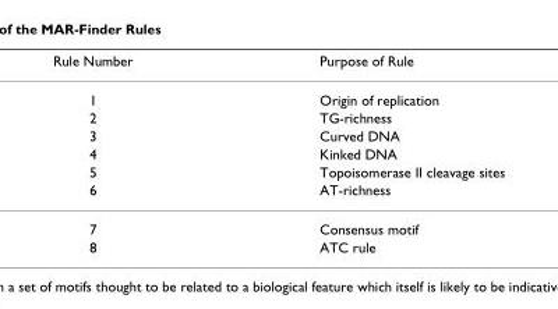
<table><thead><tr><td>Rule Number</td><td>Purpose of Rule</td></tr></thead><tbody><tr><td>1</td><td>Origin of replication</td></tr><tr><td>2</td><td>TG-richness</td></tr><tr><td>3</td><td>Curved DNA</td></tr><tr><td>4</td><td>Kinked DNA</td></tr><tr><td>5</td><td>Topoisomerase II cleavage sites</td></tr><tr><td>6</td><td>AT-richness</td></tr><tr><td>7</td><td>Consensus motif</td></tr><tr><td>8</td><td>ATC rule</td></tr></tbody></table>